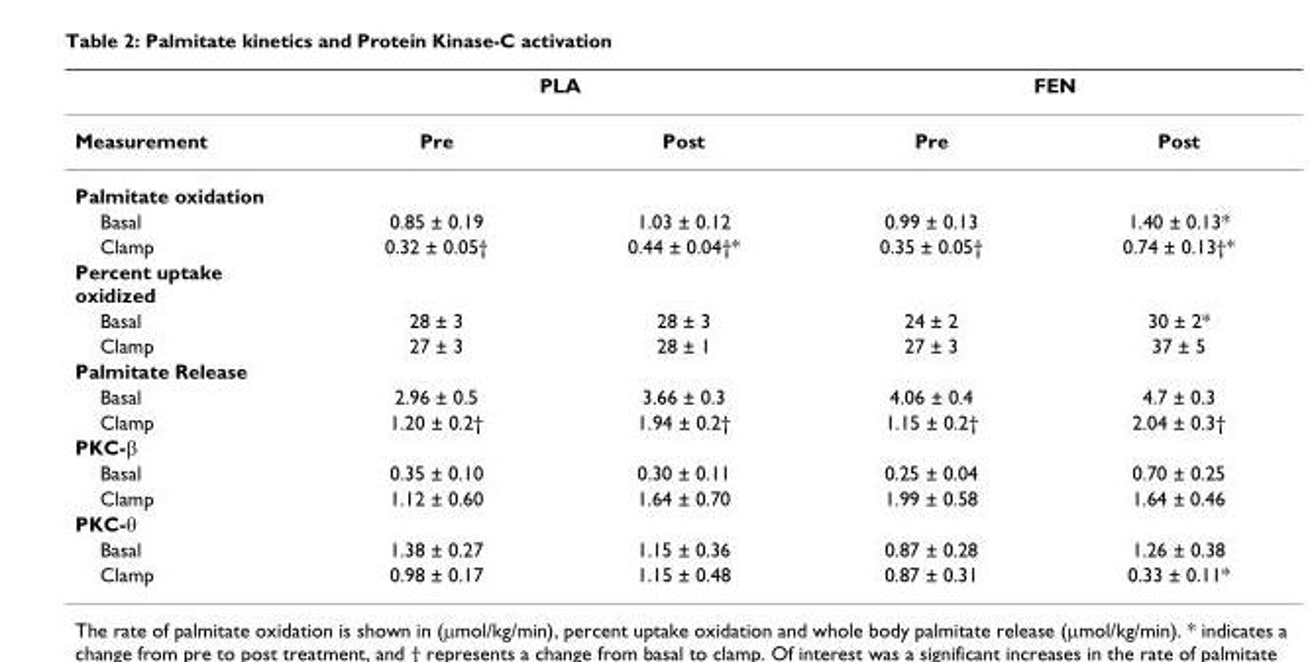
<table><thead><tr><td rowspan="2">Measurement</td><td colspan="2">PLA</td><td colspan="2">FEN</td></tr><tr><td>Pre</td><td>Post</td><td>Pre</td><td>Post</td></tr></thead><tbody><tr><td colspan="5">Palmitate oxidation</td></tr><tr><td>Basal</td><td>0.85 ± 0.19</td><td>1.03 ± 0.12</td><td>0.99 ± 0.13</td><td>1.40 ± 0.13*</td></tr><tr><td>Clamp</td><td>0.32 ± 0.05†</td><td>0.44 ± 0.04†*</td><td>0.35 ± 0.05†</td><td>0.74 ± 0.13†*</td></tr><tr><td colspan="5">Percent uptake oxidized</td></tr><tr><td>Basal</td><td>28 ± 3</td><td>28 ± 3</td><td>24 ± 2</td><td>30 ± 2*</td></tr><tr><td>Clamp</td><td>27 ± 3</td><td>28 ± 1</td><td>27 ± 3</td><td>37 ± 5</td></tr><tr><td colspan="5">Palmitate Release</td></tr><tr><td>Basal</td><td>2.96 ± 0.5</td><td>3.66 ± 0.3</td><td>4.06 ± 0.4</td><td>4.7 ± 0.3</td></tr><tr><td>Clamp</td><td>1.20 ± 0.2†</td><td>1.94 ± 0.2†</td><td>1.15 ± 0.2†</td><td>2.04 ± 0.3†</td></tr><tr><td colspan="5">PKC-β</td></tr><tr><td>Basal</td><td>0.35 ± 0.10</td><td>0.30 ± 0.11</td><td>0.25 ± 0.04</td><td>0.70 ± 0.25</td></tr><tr><td>Clamp</td><td>1.12 ± 0.60</td><td>1.64 ± 0.70</td><td>1.99 ± 0.58</td><td>1.64 ± 0.46</td></tr><tr><td colspan="5">PKC-θ</td></tr><tr><td>Basal</td><td>1.38 ± 0.27</td><td>1.15 ± 0.36</td><td>0.87 ± 0.28</td><td>1.26 ± 0.38</td></tr><tr><td>Clamp</td><td>0.98 ± 0.17</td><td>1.15 ± 0.48</td><td>0.87 ± 0.31</td><td>0.33 ± 0.11*</td></tr></tbody></table>